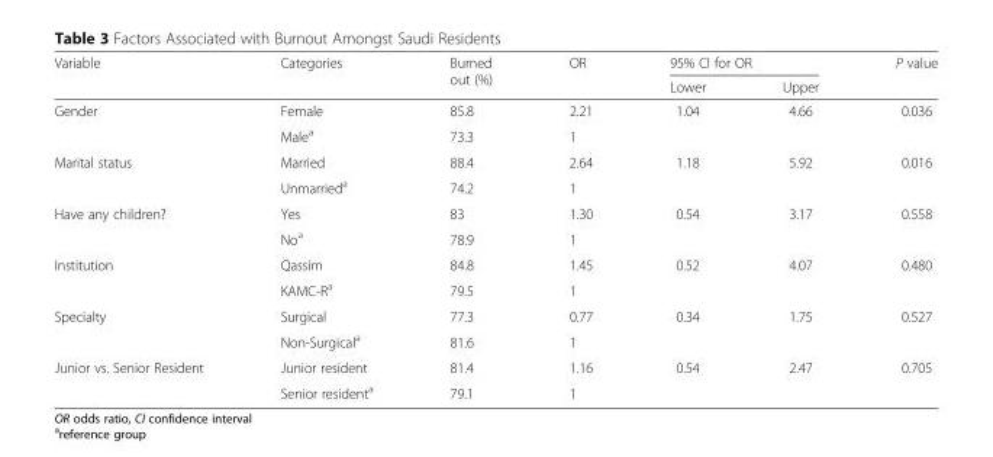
<table><thead><tr><td rowspan="2">Variable</td><td rowspan="2">Categories</td><td rowspan="2">Burned out (%)</td><td rowspan="2">OR</td><td colspan="2">95% CI for OR</td><td rowspan="2">P value</td></tr><tr><td>Lower</td><td>Upper</td></tr></thead><tbody><tr><td rowspan="2">Gender</td><td>Female</td><td>85.8</td><td>2.21</td><td>1.04</td><td>4.66</td><td rowspan="2">0.036</td></tr><tr><td>Male<sup>a</sup></td><td>73.3</td><td>1</td><td></td><td></td></tr><tr><td rowspan="2">Marital status</td><td>Married</td><td>88.4</td><td>2.64</td><td>1.18</td><td>5.92</td><td rowspan="2">0.016</td></tr><tr><td>Unmarried<sup>a</sup></td><td>74.2</td><td>1</td><td></td><td></td></tr><tr><td rowspan="2">Have any children?</td><td>Yes</td><td>83</td><td>1.30</td><td>0.54</td><td>3.17</td><td rowspan="2">0.558</td></tr><tr><td>No<sup>a</sup></td><td>78.9</td><td>1</td><td></td><td></td></tr><tr><td rowspan="2">Institution</td><td>Qassim</td><td>84.8</td><td>1.45</td><td>0.52</td><td>4.07</td><td rowspan="2">0.480</td></tr><tr><td>KAMC-R<sup>a</sup></td><td>79.5</td><td>1</td><td></td><td></td></tr><tr><td rowspan="2">Specialty</td><td>Surgical</td><td>77.3</td><td>0.77</td><td>0.34</td><td>1.75</td><td rowspan="2">0.527</td></tr><tr><td>Non-Surgical<sup>a</sup></td><td>81.6</td><td>1</td><td></td><td></td></tr><tr><td rowspan="2">Junior vs. Senior Resident</td><td>Junior resident</td><td>81.4</td><td>1.16</td><td>0.54</td><td>2.47</td><td rowspan="2">0.705</td></tr><tr><td>Senior resident<sup>a</sup></td><td>79.1</td><td>1</td><td></td><td></td></tr></tbody></table>